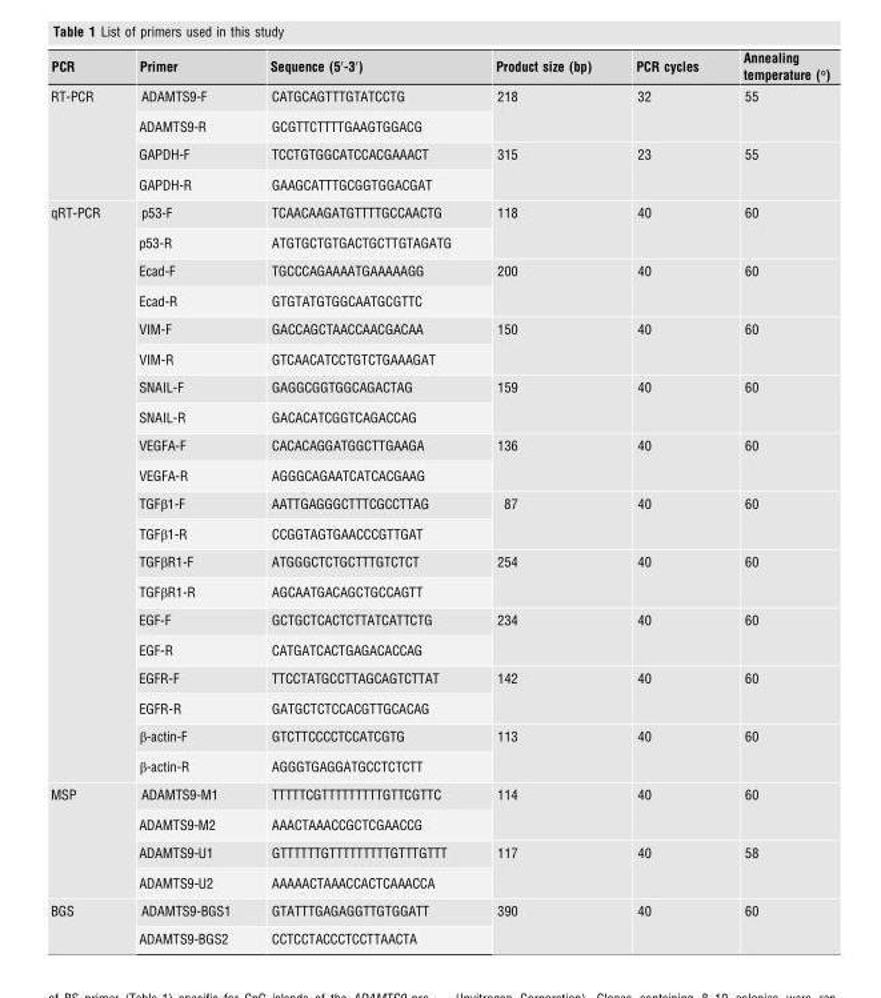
<table><thead><tr><td>PCR</td><td>Primer</td><td>Sequence (5′-3′)</td><td>Product size (bp)</td><td>PCR cycles</td><td>Annealing temperature (°)</td></tr></thead><tbody><tr><td rowspan="4">RT-PCR</td><td>ADAMTS9-F</td><td>CATGCAGTTTGTATCCTG</td><td rowspan="2">218</td><td rowspan="2">32</td><td rowspan="2">55</td></tr><tr><td>ADAMTS9-R</td><td>GCGTTCTTTTGAAGTGGACG</td></tr><tr><td>GAPDH-F</td><td>TCCTGTGGCATCCACGAAACT</td><td rowspan="2">315</td><td rowspan="2">23</td><td rowspan="2">55</td></tr><tr><td>GAPDH-R</td><td>GAAGCATTTGCGGTGGACGAT</td></tr><tr><td rowspan="20">qRT-PCR</td><td>p53-F</td><td>TCAACAAGATGTTTTGCCAACTG</td><td rowspan="2">118</td><td rowspan="2">40</td><td rowspan="2">60</td></tr><tr><td>p53-R</td><td>ATGTGCTGTGACTGCTTGTAGATG</td></tr><tr><td>Ecad-F</td><td>TGCCCAGAAAATGAAAAAGG</td><td rowspan="2">200</td><td rowspan="2">40</td><td rowspan="2">60</td></tr><tr><td>Ecad-R</td><td>GTGTATGTGGCAATGCGTTC</td></tr><tr><td>VIM-F</td><td>GACCAGCTAACCAACGACAA</td><td rowspan="2">150</td><td rowspan="2">40</td><td rowspan="2">60</td></tr><tr><td>VIM-R</td><td>GTCAACATCCTGTCTGAAAGAT</td></tr><tr><td>SNAIL-F</td><td>GAGGCGGTGGCAGACTAG</td><td rowspan="2">159</td><td rowspan="2">40</td><td rowspan="2">60</td></tr><tr><td>SNAIL-R</td><td>GACACATCGGTCAGACCAG</td></tr><tr><td>VEGFA-F</td><td>CACACAGGATGGCTTGAAGA</td><td rowspan="2">136</td><td rowspan="2">40</td><td rowspan="2">60</td></tr><tr><td>VEGFA-R</td><td>AGGGCAGAATCATCACGAAG</td></tr><tr><td>TGFβ1-F</td><td>AATTGAGGGCTTTCGCCTTAG</td><td rowspan="2">87</td><td rowspan="2">40</td><td rowspan="2">60</td></tr><tr><td>TGFβ1-R</td><td>CCGGTAGTGAACCCGTTGAT</td></tr><tr><td>TGFβR1-F</td><td>ATGGGCTCTGCTTTGTCTCT</td><td rowspan="2">254</td><td rowspan="2">40</td><td rowspan="2">60</td></tr><tr><td>TGFβR1-R</td><td>AGCAATGACAGCTGCCAGTT</td></tr><tr><td>EGF-F</td><td>GCTGCTCACTCTTATCATTCTG</td><td rowspan="2">234</td><td rowspan="2">40</td><td rowspan="2">60</td></tr><tr><td>EGF-R</td><td>CATGATCACTGAGACACCAG</td></tr><tr><td>EGFR-F</td><td>TTCCTATGCCTTAGCAGTCTTAT</td><td rowspan="2">142</td><td rowspan="2">40</td><td rowspan="2">60</td></tr><tr><td>EGFR-R</td><td>GATGCTCTCCACGTTGCACAG</td></tr><tr><td>β-actin-F</td><td>GTCTTCCCCTCCATCGTG</td><td rowspan="2">113</td><td rowspan="2">40</td><td rowspan="2">60</td></tr><tr><td>β-actin-R</td><td>AGGGTGAGGATGCCTCTCTT</td></tr><tr><td rowspan="4">MSP</td><td>ADAMTS9-M1</td><td>TTTTTCGTTTTTTTTTGTTCGTTC</td><td rowspan="2">114</td><td rowspan="2">40</td><td rowspan="2">60</td></tr><tr><td>ADAMTS9-M2</td><td>AAACTAAACCGCTCGAACCG</td></tr><tr><td>ADAMTS9-U1</td><td>GTTTTTTGTTTTTTTTTGTTTGTTT</td><td rowspan="2">117</td><td rowspan="2">40</td><td rowspan="2">58</td></tr><tr><td>ADAMTS9-U2</td><td>AAAAACTAAACCACTCAAACCA</td></tr><tr><td rowspan="2">BGS</td><td>ADAMTS9-BGS1</td><td>GTATTTGAGAGGTTGTGGATT</td><td rowspan="2">390</td><td rowspan="2">40</td><td rowspan="2">60</td></tr><tr><td>ADAMTS9-BGS2</td><td>CCTCCTACCCTCCTTAACTA</td></tr></tbody></table>